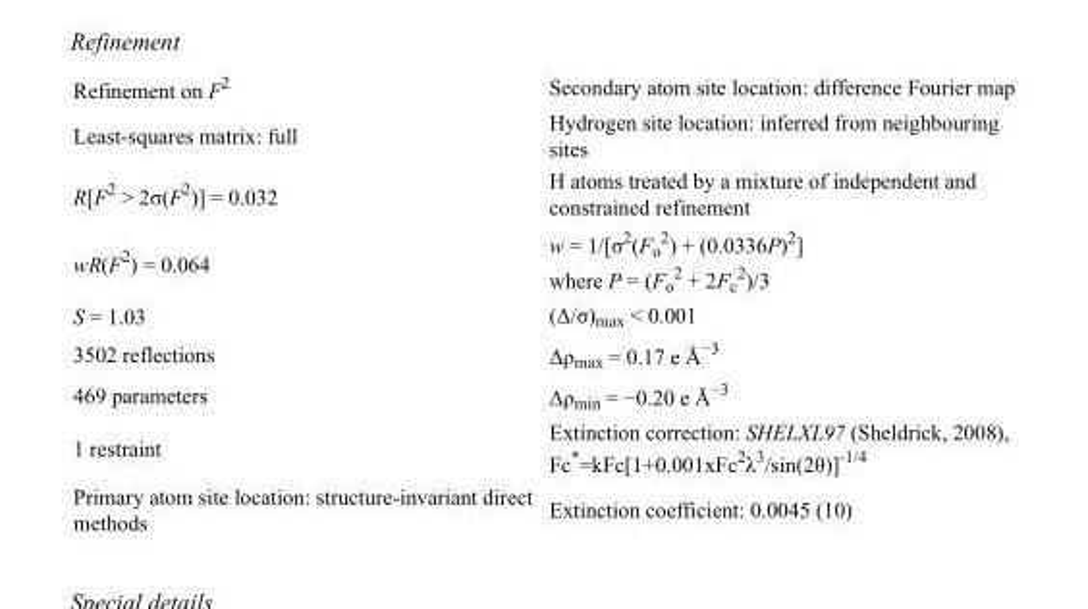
<table><tbody><tr><td>Refinement on F<sup>2</sup></td><td>Secondary atom site location: difference Fourier map</td></tr><tr><td>Least-squares matrix: full</td><td>Hydrogen site location: inferred from neighbouring sites</td></tr><tr><td>R[F<sup>2</sup> &gt; 2σ(F<sup>2</sup>)] = 0.032</td><td>H atoms treated by a mixture of independent and constrained refinement</td></tr><tr><td>wR(F<sup>2</sup>) = 0.064</td><td>w = 1/[σ<sup>2</sup>(F<sub>o</sub> <sup>2</sup>) + (0.0336P)<sup>2</sup>] where P = (F<sub>o</sub> <sup>2</sup> + 2F<sub>c</sub> <sup>2</sup>)/3</td></tr><tr><td>S = 1.03</td><td>(Δ/σ)<sub>max</sub> &lt; 0.001</td></tr><tr><td>3502 reflections</td><td>Δρ<sub>max</sub> = 0.17 e Å<sup>−3</sup></td></tr><tr><td>469 parameters</td><td>Δρ<sub>min</sub> = −0.20 e Å<sup>−3</sup></td></tr><tr><td>1 restraint</td><td>Extinction correction: SHELXL97 (Sheldrick, 2008), Fc*=kFc[1+0.001xFc<sup>2</sup>λ<sup>3</sup>/sin(2θ)]<sup>-1/4</sup></td></tr><tr><td>Primary atom site location: structure-invariant direct methods</td><td>Extinction coefficient: 0.0045 (10)</td></tr></tbody></table>